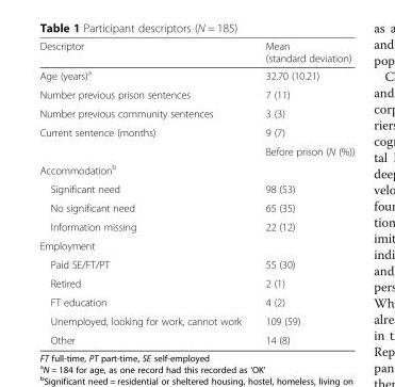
<table><thead><tr><td>Descriptor</td><td>Mean (standard deviation)</td></tr></thead><tbody><tr><td>Age (years)<sup>a</sup></td><td>32.70 (10.21)</td></tr><tr><td>Number previous prison sentences</td><td>7 (11)</td></tr><tr><td>Number previous community sentences</td><td>3 (3)</td></tr><tr><td rowspan="2">Current sentence (months)</td><td>9 (7)</td></tr><tr><td>Before prison (N (%))</td></tr><tr><td colspan="2">Accommodation<sup>b</sup></td></tr><tr><td>Significant need</td><td>98 (53)</td></tr><tr><td>No significant need</td><td>65 (35)</td></tr><tr><td>Information missing</td><td>22 (12)</td></tr><tr><td colspan="2">Employment</td></tr><tr><td>Paid SE/FT/PT</td><td>55 (30)</td></tr><tr><td>Retired</td><td>2 (1)</td></tr><tr><td>FT education</td><td>4 (2)</td></tr><tr><td>Unemployed, looking for work, cannot work</td><td>109 (59)</td></tr><tr><td>Other</td><td>14 (8)</td></tr></tbody></table>